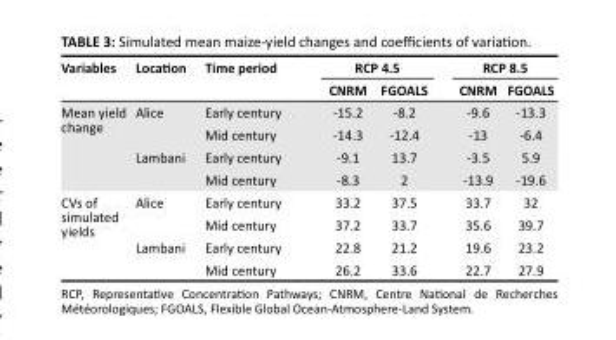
<table><thead><tr><td rowspan="2">Variables</td><td rowspan="2">Location</td><td rowspan="2">Time period</td><td colspan="2">RCP 4.5</td><td colspan="2">RCP 8.5</td></tr><tr><td>CNRM</td><td>FGOALS</td><td>CNRM</td><td>FGOALS</td></tr></thead><tbody><tr><td rowspan="4">Mean yield change</td><td rowspan="2">Alice</td><td>Early century</td><td>-15.2</td><td>-8.2</td><td>-9.6</td><td>-13.3</td></tr><tr><td>Mid century</td><td>-14.3</td><td>-12.4</td><td>-13</td><td>-6.4</td></tr><tr><td rowspan="2">Lambani</td><td>Early century</td><td>-9.1</td><td>13.7</td><td>-3.5</td><td>5.9</td></tr><tr><td>Mid century</td><td>-8.3</td><td>2</td><td>-13.9</td><td>-19.6</td></tr><tr><td rowspan="4">CVs of simulated yields</td><td rowspan="2">Alice</td><td>Early century</td><td>33.2</td><td>37.5</td><td>33.7</td><td>32</td></tr><tr><td>Mid century</td><td>37.2</td><td>33.7</td><td>35.6</td><td>39.7</td></tr><tr><td rowspan="2">Lambani</td><td>Early century</td><td>22.8</td><td>21.2</td><td>19.6</td><td>23.2</td></tr><tr><td>Mid century</td><td>26.2</td><td>33.6</td><td>22.7</td><td>27.9</td></tr></tbody></table>